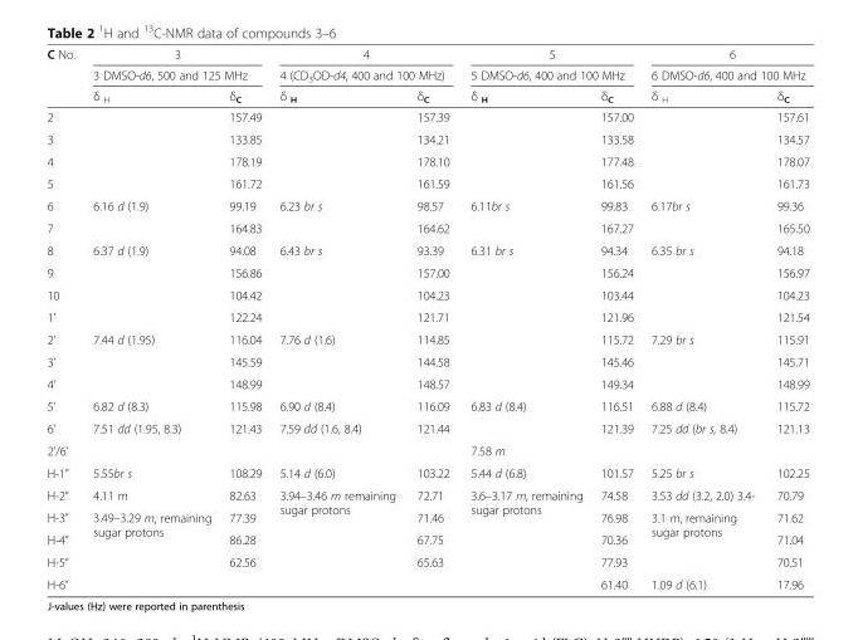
<table><thead><tr><td rowspan="3">C No.</td><td rowspan="2" colspan="2">3 3 DMSO-d6, 500 and 125 MHz</td><td rowspan="2" colspan="2">4 4 (CD3OD-d4, 400 and 100 MHz)</td><td rowspan="2" colspan="2">5 5 DMSO-d6, 400 and 100 MHz</td><td rowspan="2" colspan="2">6 6 DMSO-d6, 400 and 100 MHz</td></tr><tr></tr><tr><td>δ H</td><td>δ<sub>C</sub></td><td>δ <sub>H</sub></td><td>δ<sub>C</sub></td><td>δ <sub>H</sub></td><td>δ<sub>C</sub></td><td>δ <sub>H</sub></td><td>δ<sub>C</sub></td></tr></thead><tbody><tr><td>2</td><td rowspan="4"></td><td>157.49</td><td rowspan="4"></td><td>157.39</td><td rowspan="4"></td><td>157.00</td><td rowspan="4"></td><td>157.61</td></tr><tr><td>3</td><td>133.85</td><td>134.21</td><td>133.58</td><td>134.57</td></tr><tr><td>4</td><td>178.19</td><td>178.10</td><td>177.48</td><td>178.07</td></tr><tr><td>5</td><td>161.72</td><td>161.59</td><td>161.56</td><td>161.73</td></tr><tr><td>6</td><td>6.16 d (1.9)</td><td>99.19</td><td>6.23 br s</td><td>98.57</td><td>6.11br s</td><td>99.83</td><td>6.17br s</td><td>99.36</td></tr><tr><td>7</td><td></td><td>164.83</td><td></td><td>164.62</td><td></td><td>167.27</td><td></td><td>165.50</td></tr><tr><td>8</td><td>6.37 d (1.9)</td><td>94.08</td><td>6.43 br s</td><td>93.39</td><td>6.31 br s</td><td>94.34</td><td>6.35 br s</td><td>94.18</td></tr><tr><td>9</td><td rowspan="3"></td><td>156.86</td><td rowspan="3"></td><td>157.00</td><td rowspan="6"></td><td>156.24</td><td rowspan="3"></td><td>156.97</td></tr><tr><td>10</td><td>104.42</td><td>104.23</td><td>103.44</td><td>104.23</td></tr><tr><td>1’</td><td>122.24</td><td>121.71</td><td>121.96</td><td>121.54</td></tr><tr><td>2’</td><td>7.44 d (1.95)</td><td>116.04</td><td>7.76 d (1.6)</td><td>114.85</td><td>115.72</td><td>7.29 br s</td><td>115.91</td></tr><tr><td>3’</td><td rowspan="2"></td><td>145.59</td><td rowspan="2"></td><td>144.58</td><td>145.46</td><td rowspan="2"></td><td>145.71</td></tr><tr><td>4’</td><td>148.99</td><td>148.57</td><td>149.34</td><td>148.99</td></tr><tr><td>5’</td><td>6.82 d (8.3)</td><td>115.98</td><td>6.90 d (8.4)</td><td>116.09</td><td>6.83 d (8.4)</td><td>116.51</td><td>6.88 d (8.4)</td><td>115.72</td></tr><tr><td>6’</td><td>7.51 dd (1.95, 8.3)</td><td>121.43</td><td>7.59 dd (1.6, 8.4)</td><td>121.44</td><td></td><td>121.39</td><td>7.25 dd (br s, 8.4)</td><td>121.13</td></tr><tr><td colspan="5">2’/6’</td><td colspan="4">7.58 m</td></tr><tr><td>H-1”</td><td>5.55br s</td><td>108.29</td><td>5.14 d (6.0)</td><td>103.22</td><td>5.44 d (6.8)</td><td>101.57</td><td>5.25 br s</td><td>102.25</td></tr><tr><td>H-2”</td><td>4.11 m</td><td>82.63</td><td rowspan="5">3.94–3.46 m remaining sugar protons</td><td>72.71</td><td rowspan="4">3.6–3.17 m, remaining sugar protons</td><td>74.58</td><td>3.53 dd (3.2, 2.0) 3.4-</td><td>70.79</td></tr><tr><td>H-3”</td><td rowspan="4">3.49–3.29 m, remaining sugar protons</td><td>77.39</td><td>71.46</td><td>76.98</td><td rowspan="3">3.1 m, remaining sugar protons</td><td>71.62</td></tr><tr><td>H-4”</td><td>86.28</td><td>67.75</td><td>70.36</td><td>71.04</td></tr><tr><td>H-5”</td><td>62.56</td><td>65.63</td><td>77.93</td><td>70.51</td></tr><tr><td>H-6”</td><td></td><td colspan="2"></td><td>61.40</td><td>1.09 d (6.1)</td><td>17.96</td></tr></tbody></table>